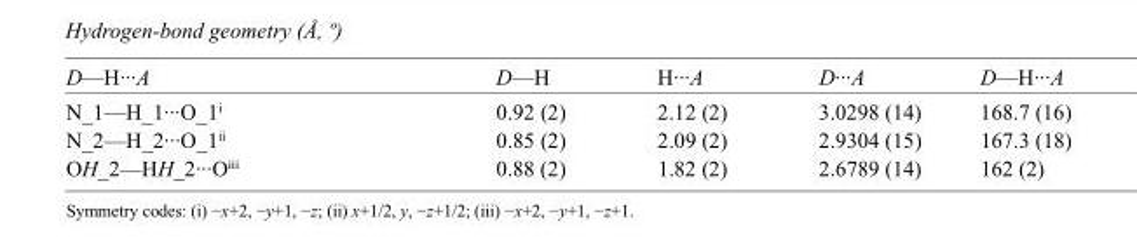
<table><tbody><tr><td>D—H···A</td><td>D—H</td><td>H···A</td><td>D···A</td><td>D—H···A</td></tr><tr><td>N_1—H_1···O_1<sup>i</sup></td><td>0.92 (2)</td><td>2.12 (2)</td><td>3.0298 (14)</td><td>168.7 (16)</td></tr><tr><td>N_2—H_2···O_1<sup>ii</sup></td><td>0.85 (2)</td><td>2.09 (2)</td><td>2.9304 (15)</td><td>167.3 (18)</td></tr><tr><td>OH_2—HH_2···O<sup>iii</sup></td><td>0.88 (2)</td><td>1.82 (2)</td><td>2.6789 (14)</td><td>162 (2)</td></tr></tbody></table>